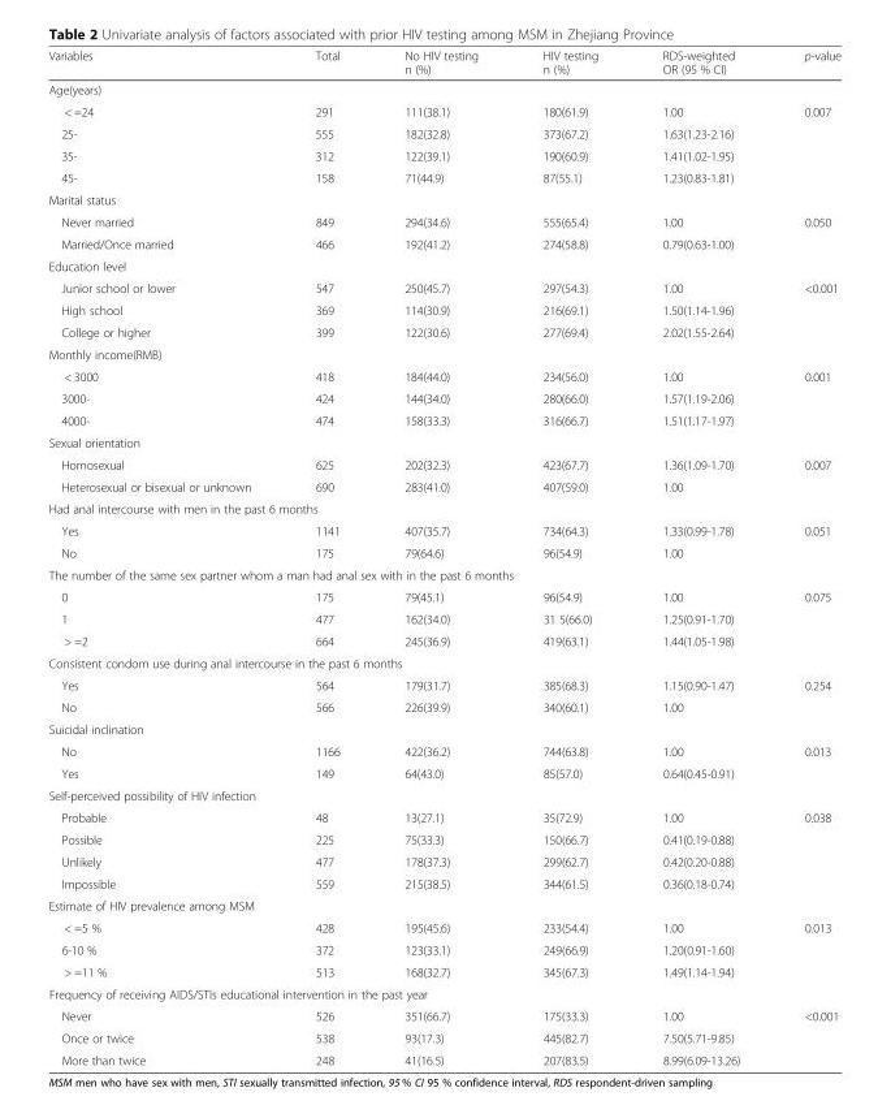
<table><thead><tr><td>Variables</td><td>Total</td><td>No HIV testing n (%)</td><td>HIV testing n (%)</td><td>RDS-weighted OR (95 % CI)</td><td>p-value</td></tr></thead><tbody><tr><td colspan="6">Age(years)</td></tr><tr><td>&lt; =24</td><td>291</td><td>111(38.1)</td><td>180(61.9)</td><td>1.00</td><td>0.007</td></tr><tr><td>25-</td><td>555</td><td>182(32.8)</td><td>373(67.2)</td><td>1.63(1.23-2.16)</td><td rowspan="3"></td></tr><tr><td>35-</td><td>312</td><td>122(39.1)</td><td>190(60.9)</td><td>1.41(1.02-1.95)</td></tr><tr><td>45-</td><td>158</td><td>71(44.9)</td><td>87(55.1)</td><td>1.23(0.83-1.81)</td></tr><tr><td colspan="6">Marital status</td></tr><tr><td>Never married</td><td>849</td><td>294(34.6)</td><td>555(65.4)</td><td>1.00</td><td>0.050</td></tr><tr><td>Married/Once married</td><td>466</td><td>192(41.2)</td><td>274(58.8)</td><td>0.79(0.63-1.00)</td><td></td></tr><tr><td colspan="6">Education level</td></tr><tr><td>Junior school or lower</td><td>547</td><td>250(45.7)</td><td>297(54.3)</td><td>1.00</td><td>&lt;0.001</td></tr><tr><td>High school</td><td>369</td><td>114(30.9)</td><td>216(69.1)</td><td>1.50(1.14-1.96)</td><td rowspan="2"></td></tr><tr><td>College or higher</td><td>399</td><td>122(30.6)</td><td>277(69.4)</td><td>2.02(1.55-2.64)</td></tr><tr><td colspan="6">Monthly income(RMB)</td></tr><tr><td>&lt; 3000</td><td>418</td><td>184(44.0)</td><td>234(56.0)</td><td>1.00</td><td>0.001</td></tr><tr><td>3000-</td><td>424</td><td>144(34.0)</td><td>280(66.0)</td><td>1.57(1.19-2.06)</td><td rowspan="2"></td></tr><tr><td>4000-</td><td>474</td><td>158(33.3)</td><td>316(66.7)</td><td>1.51(1.17-1.97)</td></tr><tr><td colspan="6">Sexual orientation</td></tr><tr><td>Homosexual</td><td>625</td><td>202(32.3)</td><td>423(67.7)</td><td>1.36(1.09-1.70)</td><td>0.007</td></tr><tr><td>Heterosexual or bisexual or unknown</td><td>690</td><td>283(41.0)</td><td>407(59.0)</td><td>1.00</td><td></td></tr><tr><td colspan="6">Had anal intercourse with men in the past 6 months</td></tr><tr><td>Yes</td><td>1141</td><td>407(35.7)</td><td>734(64.3)</td><td>1.33(0.99-1.78)</td><td>0.051</td></tr><tr><td>No</td><td>175</td><td>79(64.6)</td><td>96(54.9)</td><td>1.00</td><td></td></tr><tr><td colspan="6">The number of the same sex partner whom a man had anal sex with in the past 6 months</td></tr><tr><td>0</td><td>175</td><td>79(45.1)</td><td>96(54.9)</td><td>1.00</td><td>0.075</td></tr><tr><td>1</td><td>477</td><td>162(34.0)</td><td>31 5(66.0)</td><td>1.25(0.91-1.70)</td><td rowspan="2"></td></tr><tr><td>&gt; =2</td><td>664</td><td>245(36.9)</td><td>419(63.1)</td><td>1.44(1.05-1.98)</td></tr><tr><td colspan="6">Consistent condom use during anal intercourse in the past 6 months</td></tr><tr><td>Yes</td><td>564</td><td>179(31.7)</td><td>385(68.3)</td><td>1.15(0.90-1.47)</td><td>0.254</td></tr><tr><td>No</td><td>566</td><td>226(39.9)</td><td>340(60.1)</td><td>1.00</td><td></td></tr><tr><td colspan="6">Suicidal inclination</td></tr><tr><td>No</td><td>1166</td><td>422(36.2)</td><td>744(63.8)</td><td>1.00</td><td>0.013</td></tr><tr><td>Yes</td><td>149</td><td>64(43.0)</td><td>85(57.0)</td><td>0.64(0.45-0.91)</td><td></td></tr><tr><td colspan="6">Self-perceived possibility of HIV infection</td></tr><tr><td>Probable</td><td>48</td><td>13(27.1)</td><td>35(72.9)</td><td>1.00</td><td>0.038</td></tr><tr><td>Possible</td><td>225</td><td>75(33.3)</td><td>150(66.7)</td><td>0.41(0.19-0.88)</td><td rowspan="3"></td></tr><tr><td>Unlikely</td><td>477</td><td>178(37.3)</td><td>299(62.7)</td><td>0.42(0.20-0.88)</td></tr><tr><td>Impossible</td><td>559</td><td>215(38.5)</td><td>344(61.5)</td><td>0.36(0.18-0.74)</td></tr><tr><td colspan="6">Estimate of HIV prevalence among MSM</td></tr><tr><td>&lt; =5 %</td><td>428</td><td>195(45.6)</td><td>233(54.4)</td><td>1.00</td><td>0.013</td></tr><tr><td>6-10 %</td><td>372</td><td>123(33.1)</td><td>249(66.9)</td><td>1.20(0.91-1.60)</td><td rowspan="2"></td></tr><tr><td>&gt; =11 %</td><td>513</td><td>168(32.7)</td><td>345(67.3)</td><td>1.49(1.14-1.94)</td></tr><tr><td colspan="6">Frequency of receiving AIDS/STIs educational intervention in the past year</td></tr><tr><td>Never</td><td>526</td><td>351(66.7)</td><td>175(33.3)</td><td>1.00</td><td>&lt;0.001</td></tr><tr><td>Once or twice</td><td>538</td><td>93(17.3)</td><td>445(82.7)</td><td>7.50(5.71-9.85)</td><td rowspan="2"></td></tr><tr><td>More than twice</td><td>248</td><td>41(16.5)</td><td>207(83.5)</td><td>8.99(6.09-13.26)</td></tr></tbody></table>